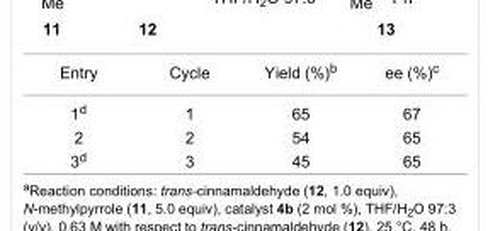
<table><tbody><tr><td>Entry</td><td>Cycle</td><td>Yield (%)<sup>b</sup></td><td>ee (%)<sup>c</sup></td></tr><tr><td>1<sup>d</sup></td><td>1</td><td>65</td><td>67</td></tr><tr><td>2</td><td>2</td><td>54</td><td>65</td></tr><tr><td>3<sup>d</sup></td><td>3</td><td>45</td><td>65</td></tr></tbody></table>